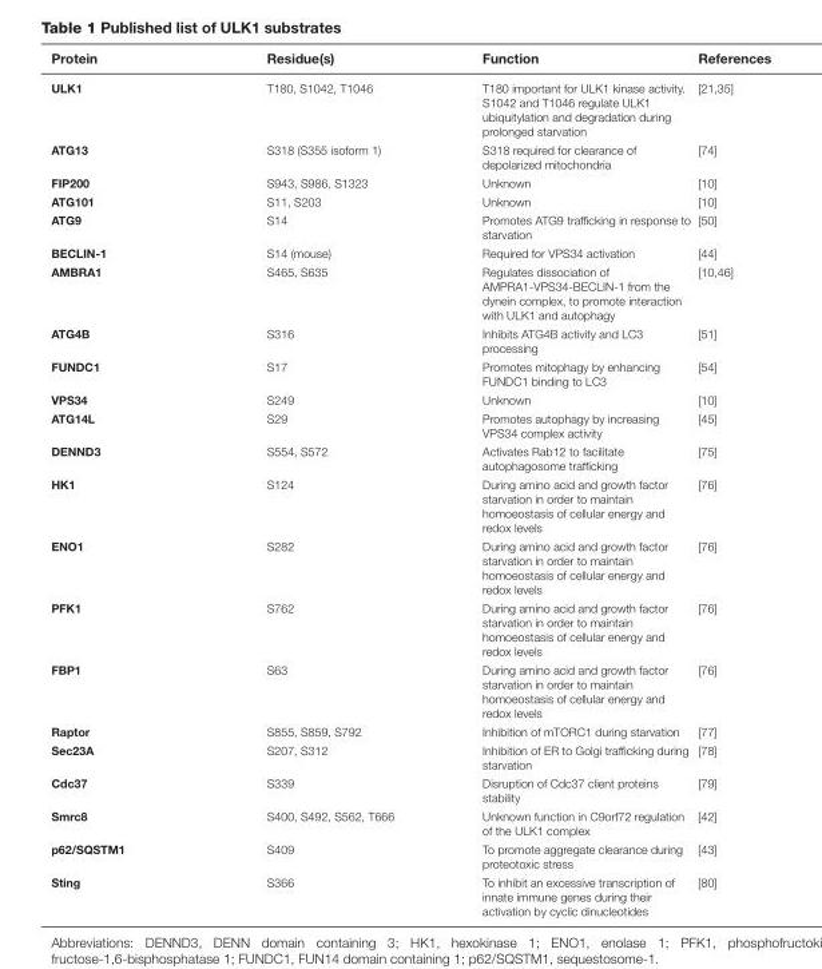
<table><thead><tr><td>Protein</td><td>Residue(s)</td><td>Function</td><td>References</td></tr></thead><tbody><tr><td>ULK1</td><td>T180, S1042, T1046</td><td>T180 important for ULK1 kinase activity. S1042 and T1046 regulate ULK1 ubiquitylation and degradation during prolonged starvation</td><td>[21,35]</td></tr><tr><td>ATG13</td><td>S318 (S355 isoform 1)</td><td>S318 required for clearance of depolarized mitochondria</td><td>[74]</td></tr><tr><td>FIP200</td><td>S943, S986, S1323</td><td>Unknown</td><td>[10]</td></tr><tr><td>ATG101</td><td>S11, S203</td><td>Unknown</td><td>[10]</td></tr><tr><td>ATG9</td><td>S14</td><td>Promotes ATG9 trafficking in response to starvation</td><td>[50]</td></tr><tr><td>BECLIN-1</td><td>S14 (mouse)</td><td>Required for VPS34 activation</td><td>[44]</td></tr><tr><td>AMBRA1</td><td>S465, S635</td><td>Regulates dissociation of AMPRA1-VPS34-BECLIN-1 from the dynein complex, to promote interaction with ULK1 and autophagy</td><td>[10,46]</td></tr><tr><td>ATG4B</td><td>S316</td><td>Inhibits ATG4B activity and LC3 processing</td><td>[51]</td></tr><tr><td>FUNDC1</td><td>S17</td><td>Promotes mitophagy by enhancing FUNDC1 binding to LC3</td><td>[54]</td></tr><tr><td>VPS34</td><td>S249</td><td>Unknown</td><td>[10]</td></tr><tr><td>ATG14L</td><td>S29</td><td>Promotes autophagy by increasing VPS34 complex activity</td><td>[45]</td></tr><tr><td>DENND3</td><td>S554, S572</td><td>Activates Rab12 to facilitate autophagosome trafficking</td><td>[75]</td></tr><tr><td>HK1</td><td>S124</td><td>During amino acid and growth factor starvation in order to maintain homoeostasis of cellular energy and redox levels</td><td>[76]</td></tr><tr><td>ENO1</td><td>S282</td><td>During amino acid and growth factor starvation in order to maintain homoeostasis of cellular energy and redox levels</td><td>[76]</td></tr><tr><td>PFK1</td><td>S762</td><td>During amino acid and growth factor starvation in order to maintain homoeostasis of cellular energy and redox levels</td><td>[76]</td></tr><tr><td>FBP1</td><td>S63</td><td>During amino acid and growth factor starvation in order to maintain homoeostasis of cellular energy and redox levels</td><td>[76]</td></tr><tr><td>Raptor</td><td>S855, S859, S792</td><td>Inhibition of mTORC1 during starvation</td><td>[77]</td></tr><tr><td>Sec23A</td><td>S207, S312</td><td>Inhibition of ER to Golgi trafficking during starvation</td><td>[78]</td></tr><tr><td>Cdc37</td><td>S339</td><td>Disruption of Cdc37 client proteins stability</td><td>[79]</td></tr><tr><td>Smrc8</td><td>S400, S492, S562, T666</td><td>Unknown function in C9orf72 regulation of the ULK1 complex</td><td>[42]</td></tr><tr><td>p62/SQSTM1</td><td>S409</td><td>To promote aggregate clearance during proteotoxic stress</td><td>[43]</td></tr><tr><td>Sting</td><td>S366</td><td>To inhibit an excessive transcription of innate immune genes during their activation by cyclic dinucleotides</td><td>[80]</td></tr></tbody></table>